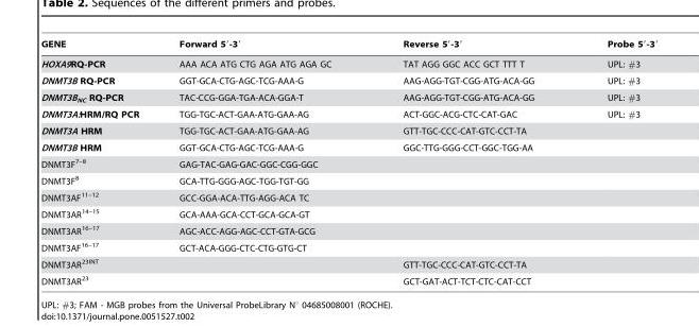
<table><thead><tr><td>GENE</td><td>Forward 5′-3′</td><td>Reverse 5′-3′</td><td>Probe 5′-3′</td></tr></thead><tbody><tr><td>HOXA9RQ-PCR</td><td>AAA ACA ATG CTG AGA ATG AGA GC</td><td>TAT AGG GGC ACC GCT TTT T</td><td>UPL: #3</td></tr><tr><td>DNMT3B RQ-PCR</td><td>GGT-GCA-CTG-AGC-TCG-AAA-G</td><td>AAG-AGG-TGT-CGG-ATG-ACA-GG</td><td>UPL: #3</td></tr><tr><td>DNMT3B<sub>NC</sub> RQ-PCR</td><td>TAC-CCG-GGA-TGA-ACA-GGA-T</td><td>AAG-AGG-TGT-CGG-ATG-ACA-GG</td><td>UPL: #3</td></tr><tr><td>DNMT3A:HRM/RQ PCR</td><td>TGG-TGC-ACT-GAA-ATG-GAA-AG</td><td>ACT-GGC-ACG-CTC-CAT-GAC</td><td>UPL: #3</td></tr><tr><td>DNMT3A HRM</td><td>TGG-TGC-ACT-GAA-ATG-GAA-AG</td><td>GTT-TGC-CCC-CAT-GTC-CCT-TA</td><td></td></tr><tr><td>DNMT3B HRM</td><td>GGT-GCA-CTG-AGC-TCG-AAA-G</td><td>GGC-TTG-GGG-CCT-GGC-TGG-AA</td><td></td></tr><tr><td>DNMT3F<sup>7–8</sup></td><td>GAG-TAC-GAG-GAC-GGC-CGG-GGC</td><td></td><td></td></tr><tr><td>DNMT3F<sup>8</sup></td><td>GCA-TTG-GGG-AGC-TGG-TGT-GG</td><td></td><td></td></tr><tr><td>DNMT3AF<sup>11–12</sup></td><td>GCC-GGA-ACA-TTG-AGG-ACA TC</td><td></td><td></td></tr><tr><td>DNMT3AR<sup>14–15</sup></td><td>GCA-AAA-GCA-CCT-GCA-GCA-GT</td><td></td><td></td></tr><tr><td>DNMT3AR<sup>16–17</sup></td><td>AGC-ACC-AGG-AGC-CCT-GTA-GCG</td><td></td><td></td></tr><tr><td>DNMT3AF<sup>16–17</sup></td><td>GCT-ACA-GGG-CTC-CTG-GTG-CT</td><td></td><td></td></tr><tr><td>DNMT3AR<sup>23INT</sup></td><td></td><td>GTT-TGC-CCC-CAT-GTC-CCT-TA</td><td></td></tr><tr><td>DNMT3AR<sup>23</sup></td><td></td><td>GCT-GAT-ACT-TCT-CTC-CAT-CCT</td><td></td></tr></tbody></table>